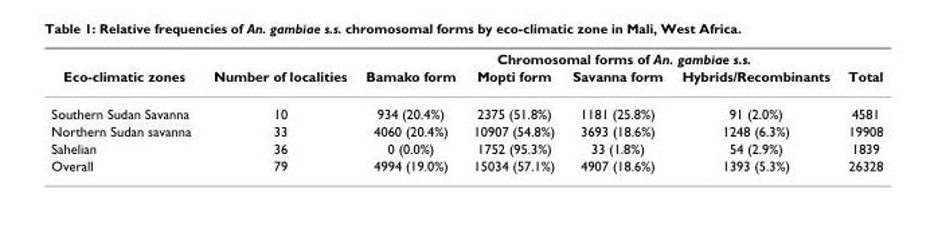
<table><thead><tr><td rowspan="2">Eco-climatic zones</td><td rowspan="2">Number of localities</td><td colspan="5">Chromosomal forms of An. gambiae s.s.</td></tr><tr><td>Bamako form</td><td>Mopti form</td><td>Savanna form</td><td>Hybrids/Recombinants</td><td>Total</td></tr></thead><tbody><tr><td>Southern Sudan Savanna</td><td>10</td><td>934 (20.4%)</td><td>2375 (51.8%)</td><td>1181 (25.8%)</td><td>91 (2.0%)</td><td>4581</td></tr><tr><td>Northern Sudan savanna</td><td>33</td><td>4060 (20.4%)</td><td>10907 (54.8%)</td><td>3693 (18.6%)</td><td>1248 (6.3%)</td><td>19908</td></tr><tr><td>Sahelian</td><td>36</td><td>0 (0.0%)</td><td>1752 (95.3%)</td><td>33 (1.8%)</td><td>54 (2.9%)</td><td>1839</td></tr><tr><td>Overall</td><td>79</td><td>4994 (19.0%)</td><td>15034 (57.1%)</td><td>4907 (18.6%)</td><td>1393 (5.3%)</td><td>26328</td></tr></tbody></table>